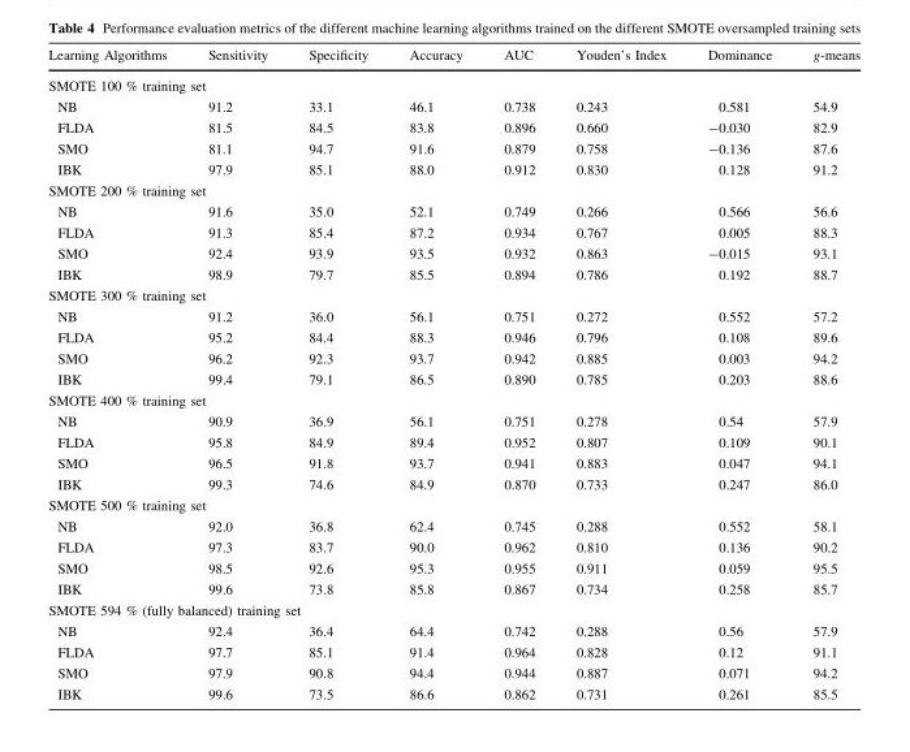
<table><thead><tr><td>Learning Algorithms</td><td>Sensitivity</td><td>Specificity</td><td>Accuracy</td><td>AUC</td><td>Youden’s Index</td><td>Dominance</td><td>g-means</td></tr></thead><tbody><tr><td colspan="8">SMOTE 100 % training set</td></tr><tr><td>NB</td><td>91.2</td><td>33.1</td><td>46.1</td><td>0.738</td><td>0.243</td><td>0.581</td><td>54.9</td></tr><tr><td>FLDA</td><td>81.5</td><td>84.5</td><td>83.8</td><td>0.896</td><td>0.660</td><td>-0.030</td><td>82.9</td></tr><tr><td>SMO</td><td>81.1</td><td>94.7</td><td>91.6</td><td>0.879</td><td>0.758</td><td>-0.136</td><td>87.6</td></tr><tr><td>IBK</td><td>97.9</td><td>85.1</td><td>88.0</td><td>0.912</td><td>0.830</td><td>0.128</td><td>91.2</td></tr><tr><td colspan="8">SMOTE 200 % training set</td></tr><tr><td>NB</td><td>91.6</td><td>35.0</td><td>52.1</td><td>0.749</td><td>0.266</td><td>0.566</td><td>56.6</td></tr><tr><td>FLDA</td><td>91.3</td><td>85.4</td><td>87.2</td><td>0.934</td><td>0.767</td><td>0.005</td><td>88.3</td></tr><tr><td>SMO</td><td>92.4</td><td>93.9</td><td>93.5</td><td>0.932</td><td>0.863</td><td>-0.015</td><td>93.1</td></tr><tr><td>IBK</td><td>98.9</td><td>79.7</td><td>85.5</td><td>0.894</td><td>0.786</td><td>0.192</td><td>88.7</td></tr><tr><td colspan="8">SMOTE 300 % training set</td></tr><tr><td>NB</td><td>91.2</td><td>36.0</td><td>56.1</td><td>0.751</td><td>0.272</td><td>0.552</td><td>57.2</td></tr><tr><td>FLDA</td><td>95.2</td><td>84.4</td><td>88.3</td><td>0.946</td><td>0.796</td><td>0.108</td><td>89.6</td></tr><tr><td>SMO</td><td>96.2</td><td>92.3</td><td>93.7</td><td>0.942</td><td>0.885</td><td>0.003</td><td>94.2</td></tr><tr><td>IBK</td><td>99.4</td><td>79.1</td><td>86.5</td><td>0.890</td><td>0.785</td><td>0.203</td><td>88.6</td></tr><tr><td colspan="8">SMOTE 400 % training set</td></tr><tr><td>NB</td><td>90.9</td><td>36.9</td><td>56.1</td><td>0.751</td><td>0.278</td><td>0.54</td><td>57.9</td></tr><tr><td>FLDA</td><td>95.8</td><td>84.9</td><td>89.4</td><td>0.952</td><td>0.807</td><td>0.109</td><td>90.1</td></tr><tr><td>SMO</td><td>96.5</td><td>91.8</td><td>93.7</td><td>0.941</td><td>0.883</td><td>0.047</td><td>94.1</td></tr><tr><td>IBK</td><td>99.3</td><td>74.6</td><td>84.9</td><td>0.870</td><td>0.733</td><td>0.247</td><td>86.0</td></tr><tr><td colspan="8">SMOTE 500 % training set</td></tr><tr><td>NB</td><td>92.0</td><td>36.8</td><td>62.4</td><td>0.745</td><td>0.288</td><td>0.552</td><td>58.1</td></tr><tr><td>FLDA</td><td>97.3</td><td>83.7</td><td>90.0</td><td>0.962</td><td>0.810</td><td>0.136</td><td>90.2</td></tr><tr><td>SMO</td><td>98.5</td><td>92.6</td><td>95.3</td><td>0.955</td><td>0.911</td><td>0.059</td><td>95.5</td></tr><tr><td>IBK</td><td>99.6</td><td>73.8</td><td>85.8</td><td>0.867</td><td>0.734</td><td>0.258</td><td>85.7</td></tr><tr><td colspan="8">SMOTE 594 % (fully balanced) training set</td></tr><tr><td>NB</td><td>92.4</td><td>36.4</td><td>64.4</td><td>0.742</td><td>0.288</td><td>0.56</td><td>57.9</td></tr><tr><td>FLDA</td><td>97.7</td><td>85.1</td><td>91.4</td><td>0.964</td><td>0.828</td><td>0.12</td><td>91.1</td></tr><tr><td>SMO</td><td>97.9</td><td>90.8</td><td>94.4</td><td>0.944</td><td>0.887</td><td>0.071</td><td>94.2</td></tr><tr><td>IBK</td><td>99.6</td><td>73.5</td><td>86.6</td><td>0.862</td><td>0.731</td><td>0.261</td><td>85.5</td></tr></tbody></table>